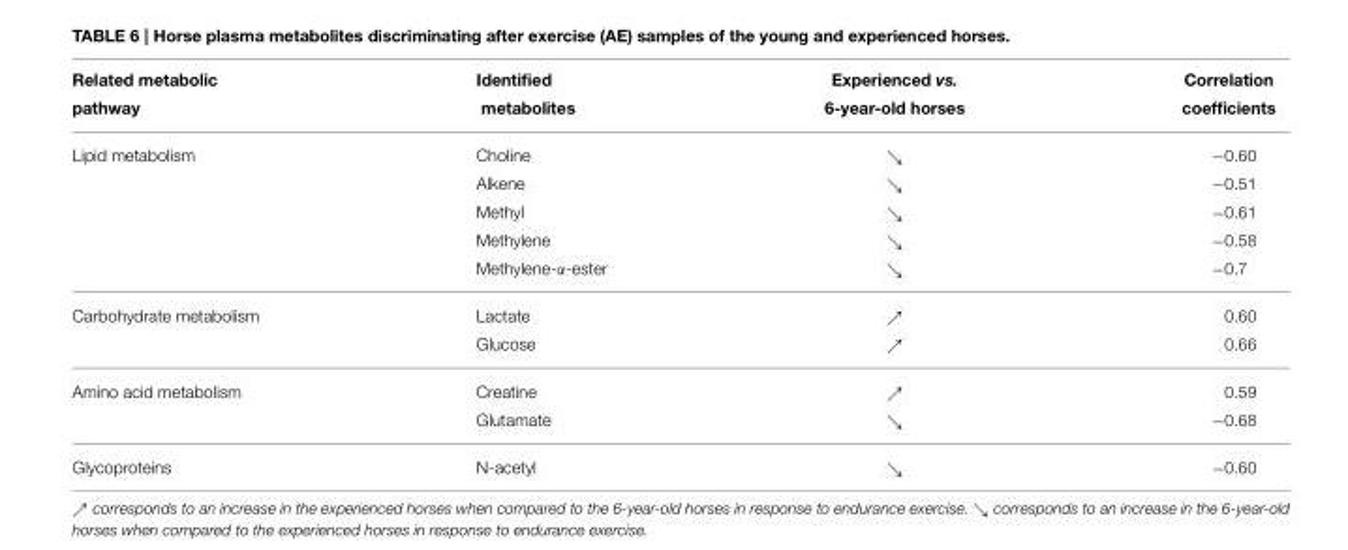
<table><thead><tr><td>Related metabolic pathway</td><td>Identified metabolites</td><td>Experienced vs. 6-year-old horses</td><td>Correlation coefficients</td></tr></thead><tbody><tr><td rowspan="5">Lipid metabolism</td><td>Choline</td><td>ց</td><td>−0.60</td></tr><tr><td>Alkene</td><td>ց</td><td>−0.51</td></tr><tr><td>Methyl</td><td>ց</td><td>−0.61</td></tr><tr><td>Methylene</td><td>ց</td><td>−0.58</td></tr><tr><td>Methylene-α-ester</td><td>ց</td><td>−0.7</td></tr><tr><td rowspan="2">Carbohydrate metabolism</td><td>Lactate</td><td>ր</td><td>0.60</td></tr><tr><td>Glucose</td><td>ր</td><td>0.66</td></tr><tr><td rowspan="2">Amino acid metabolism</td><td>Creatine</td><td>ր</td><td>0.59</td></tr><tr><td>Glutamate</td><td>ց</td><td>−0.68</td></tr><tr><td>Glycoproteins</td><td>N-acetyl</td><td>ց</td><td>−0.60</td></tr></tbody></table>